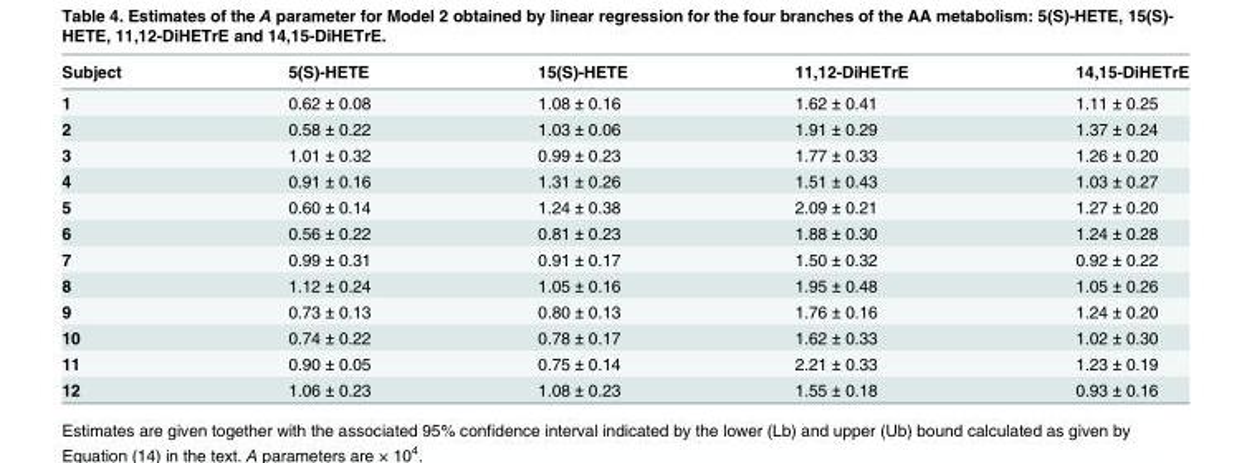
<table><thead><tr><td>Subject</td><td>5(S)-HETE</td><td>15(S)-HETE</td><td>11,12-DiHETrE</td><td>14,15-DiHETrE</td></tr></thead><tbody><tr><td>1</td><td>0.62 ± 0.08</td><td>1.08 ± 0.16</td><td>1.62 ± 0.41</td><td>1.11 ± 0.25</td></tr><tr><td>2</td><td>0.58 ± 0.22</td><td>1.03 ± 0.06</td><td>1.91 ± 0.29</td><td>1.37 ± 0.24</td></tr><tr><td>3</td><td>1.01 ± 0.32</td><td>0.99 ± 0.23</td><td>1.77 ± 0.33</td><td>1.26 ± 0.20</td></tr><tr><td>4</td><td>0.91 ± 0.16</td><td>1.31 ± 0.26</td><td>1.51 ± 0.43</td><td>1.03 ± 0.27</td></tr><tr><td>5</td><td>0.60 ± 0.14</td><td>1.24 ± 0.38</td><td>2.09 ± 0.21</td><td>1.27 ± 0.20</td></tr><tr><td>6</td><td>0.56 ± 0.22</td><td>0.81 ± 0.23</td><td>1.88 ± 0.30</td><td>1.24 ± 0.28</td></tr><tr><td>7</td><td>0.99 ± 0.31</td><td>0.91 ± 0.17</td><td>1.50 ± 0.32</td><td>0.92 ± 0.22</td></tr><tr><td>8</td><td>1.12 ± 0.24</td><td>1.05 ± 0.16</td><td>1.95 ± 0.48</td><td>1.05 ± 0.26</td></tr><tr><td>9</td><td>0.73 ± 0.13</td><td>0.80 ± 0.13</td><td>1.76 ± 0.16</td><td>1.24 ± 0.20</td></tr><tr><td>10</td><td>0.74 ± 0.22</td><td>0.78 ± 0.17</td><td>1.62 ± 0.33</td><td>1.02 ± 0.30</td></tr><tr><td>11</td><td>0.90 ± 0.05</td><td>0.75 ± 0.14</td><td>2.21 ± 0.33</td><td>1.23 ± 0.19</td></tr><tr><td>12</td><td>1.06 ± 0.23</td><td>1.08 ± 0.23</td><td>1.55 ± 0.18</td><td>0.93 ± 0.16</td></tr></tbody></table>